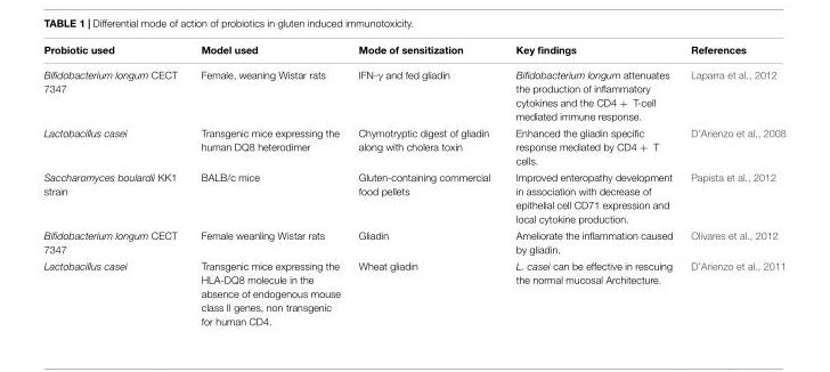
<table><thead><tr><td>Probiotic used</td><td>Model used</td><td>Mode of sensitization</td><td>Key findings</td><td>References</td></tr></thead><tbody><tr><td>Bifidobacterium longum CECT 7347</td><td>Female, weaning Wistar rats</td><td>IFN-γ and fed gliadin</td><td>Bifidobacterium longum attenuates the production of inflammatory cytokines and the CD4 + T-cell mediated immune response.</td><td>Laparra et al., 2012</td></tr><tr><td>Lactobacillus casei</td><td>Transgenic mice expressing the human DQ8 heterodimer</td><td>Chymotryptic digest of gliadin along with cholera toxin</td><td>Enhanced the gliadin specific response mediated by CD4 + T cells.</td><td>D’Arienzo et al., 2008</td></tr><tr><td>Saccharomyces boulardii KK1 strain</td><td>BALB/c mice</td><td>Gluten-containing commercial food pellets</td><td>Improved enteropathy development in association with decrease of epithelial cell CD71 expression and local cytokine production.</td><td>Papista et al., 2012</td></tr><tr><td>Bifidobacterium longum CECT 7347</td><td>Female weanling Wistar rats</td><td>Gliadin</td><td>Ameliorate the inflammation caused by gliadin.</td><td>Olivares et al., 2012</td></tr><tr><td>Lactobacillus casei</td><td>Transgenic mice expressing the HLA-DQ8 molecule in the absence of endogenous mouse class II genes, non transgenic for human CD4.</td><td>Wheat gliadin</td><td>L. casei can be effective in rescuing the normal mucosal Architecture.</td><td>D’Arienzo et al., 2011</td></tr></tbody></table>